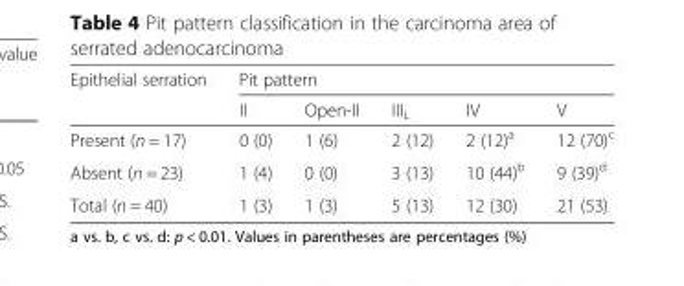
<table><thead><tr><td rowspan="2">Epithelial serration</td><td colspan="5">Pit pattern</td></tr><tr><td>II</td><td>Open-II</td><td>III<sub>L</sub></td><td>IV</td><td>V</td></tr></thead><tbody><tr><td>Present (n = 17)</td><td>0 (0)</td><td>1 (6)</td><td>2 (12)</td><td>2 (12)<sup>a</sup></td><td>12 (70)<sup>c</sup></td></tr><tr><td>Absent (n = 23)</td><td>1 (4)</td><td>0 (0)</td><td>3 (13)</td><td>10 (44)<sup>b</sup></td><td>9 (39)<sup>d</sup></td></tr><tr><td>Total (n = 40)</td><td>1 (3)</td><td>1 (3)</td><td>5 (13)</td><td>12 (30)</td><td>21 (53)</td></tr></tbody></table>